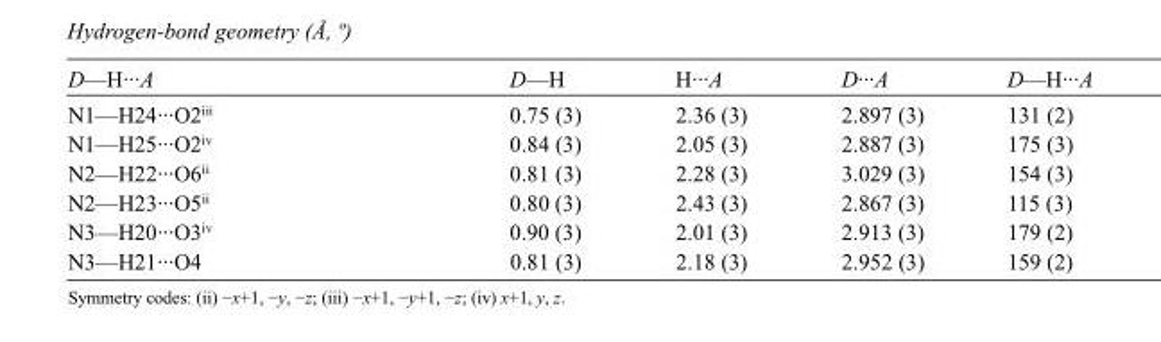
<table><tbody><tr><td>D—H···A</td><td>D—H</td><td>H···A</td><td>D···A</td><td>D—H···A</td></tr><tr><td>N1—H24···O2<sup>iii</sup></td><td>0.75 (3)</td><td>2.36 (3)</td><td>2.897 (3)</td><td>131 (2)</td></tr><tr><td>N1—H25···O2<sup>iv</sup></td><td>0.84 (3)</td><td>2.05 (3)</td><td>2.887 (3)</td><td>175 (3)</td></tr><tr><td>N2—H22···O6<sup>ii</sup></td><td>0.81 (3)</td><td>2.28 (3)</td><td>3.029 (3)</td><td>154 (3)</td></tr><tr><td>N2—H23···O5<sup>ii</sup></td><td>0.80 (3)</td><td>2.43 (3)</td><td>2.867 (3)</td><td>115 (3)</td></tr><tr><td>N3—H20···O3<sup>iv</sup></td><td>0.90 (3)</td><td>2.01 (3)</td><td>2.913 (3)</td><td>179 (2)</td></tr><tr><td>N3—H21···O4</td><td>0.81 (3)</td><td>2.18 (3)</td><td>2.952 (3)</td><td>159 (2)</td></tr></tbody></table>